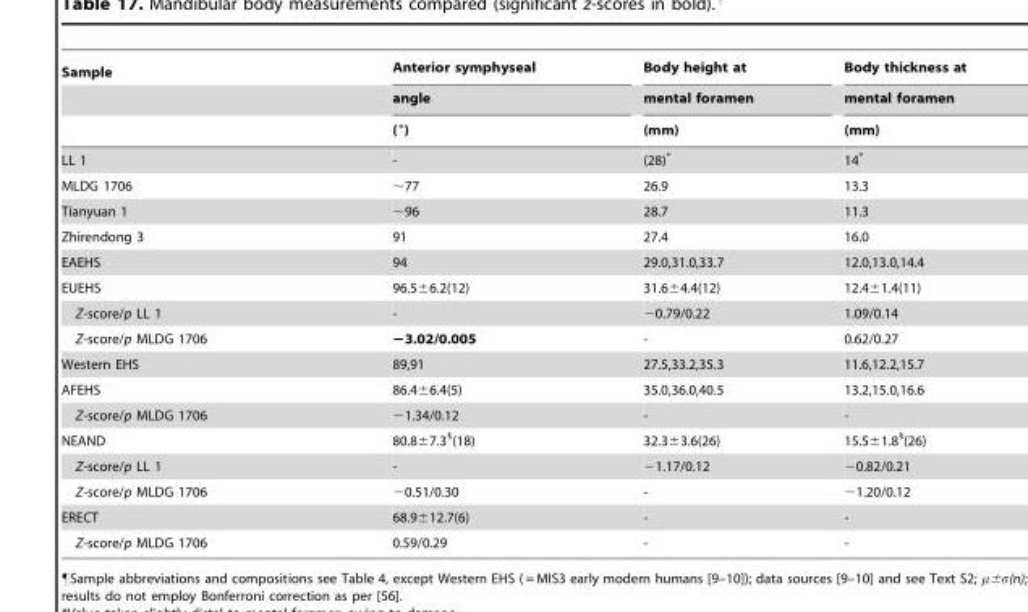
<table><thead><tr><td rowspan="3">Sample</td><td rowspan="3">Anterior symphyseal angle (°)</td><td rowspan="3">Body height at mental foramen (mm)</td><td rowspan="3">Body thickness at mental foramen (mm)</td></tr><tr></tr><tr></tr></thead><tbody><tr><td>LL 1</td><td>-</td><td>(28)*</td><td>14*</td></tr><tr><td>MLDG 1706</td><td>∼77</td><td>26.9</td><td>13.3</td></tr><tr><td>Tianyuan 1</td><td>∼96</td><td>28.7</td><td>11.3</td></tr><tr><td>Zhirendong 3</td><td>91</td><td>27.4</td><td>16.0</td></tr><tr><td>EAEHS</td><td>94</td><td>29.0,31.0,33.7</td><td>12.0,13.0,14.4</td></tr><tr><td>EUEHS</td><td>96.5±6.2(12)</td><td>31.6±4.4(12)</td><td>12.4±1.4(11)</td></tr><tr><td>Z-score/p LL 1</td><td>-</td><td>−0.79/0.22</td><td>1.09/0.14</td></tr><tr><td>Z-score/p MLDG 1706</td><td>−3.02/0.005</td><td>-</td><td>0.62/0.27</td></tr><tr><td>Western EHS</td><td>89,91</td><td>27.5,33.2,35.3</td><td>11.6,12.2,15.7</td></tr><tr><td>AFEHS</td><td>86.4±6.4(5)</td><td>35.0,36.0,40.5</td><td>13.2,15.0,16.6</td></tr><tr><td>Z-score/p MLDG 1706</td><td>−1.34/0.12</td><td>-</td><td>-</td></tr><tr><td>NEAND</td><td>80.8±7.3§(18)</td><td>32.3±3.6(26)</td><td>15.5±1.8§(26)</td></tr><tr><td>Z-score/p LL 1</td><td>-</td><td>−1.17/0.12</td><td>−0.82/0.21</td></tr><tr><td>Z-score/p MLDG 1706</td><td>−0.51/0.30</td><td>-</td><td>−1.20/0.12</td></tr><tr><td>ERECT</td><td>68.9±12.7(6)</td><td>-</td><td>-</td></tr><tr><td>Z-score/p MLDG 1706</td><td>0.59/0.29</td><td>-</td><td>-</td></tr></tbody></table>